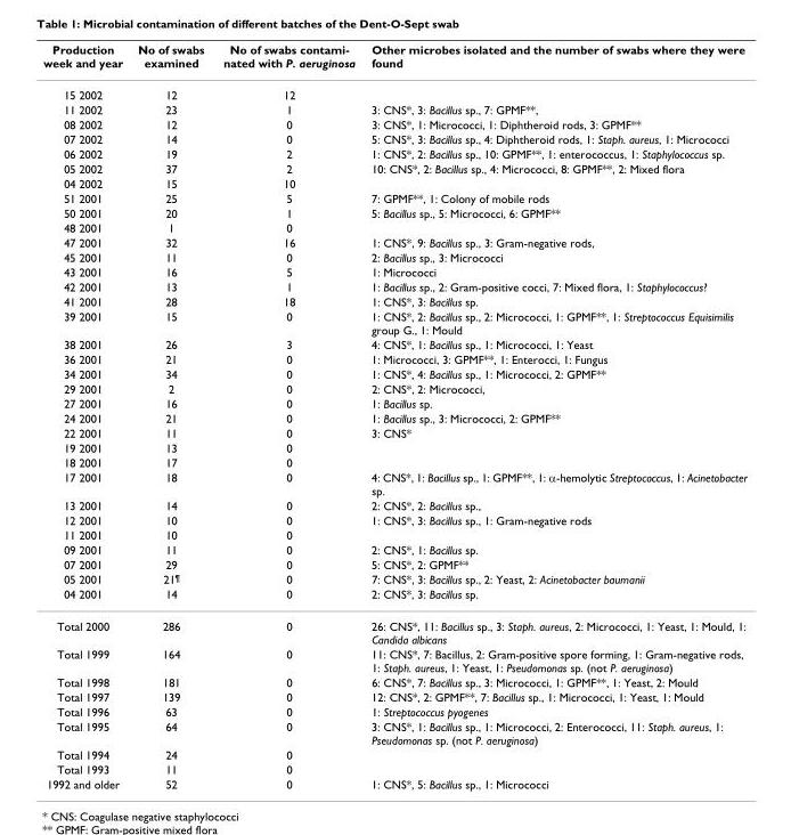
<table><thead><tr><td>Production week and year</td><td>No of swabs examined</td><td>No of swabs contami- nated with P. aeruginosa</td><td>Other microbes isolated and the number of swabs where they were found</td></tr></thead><tbody><tr><td>15 2002</td><td>12</td><td>12</td><td></td></tr><tr><td>11 2002</td><td>23</td><td>1</td><td>3: CNS*, 3: Bacillus sp., 7: GPMF**,</td></tr><tr><td>08 2002</td><td>12</td><td>0</td><td>3: CNS*, 1: Micrococci, 1: Diphtheroid rods, 3: GPMF**</td></tr><tr><td>07 2002</td><td>14</td><td>0</td><td>5: CNS*, 3: Bacillus sp., 4: Diphtheroid rods, 1: Staph. aureus, 1: Micrococci</td></tr><tr><td>06 2002</td><td>19</td><td>2</td><td>1: CNS*, 2: Bacillus sp., 10: GPMF**, 1: enterococcus, 1: Staphylococcus sp.</td></tr><tr><td>05 2002</td><td>37</td><td>2</td><td>10: CNS*, 2: Bacillus sp., 4: Micrococci, 8: GPMF**, 2: Mixed flora</td></tr><tr><td>04 2002</td><td>15</td><td>10</td><td></td></tr><tr><td>51 2001</td><td>25</td><td>5</td><td>7: GPMF**, 1: Colony of mobile rods</td></tr><tr><td>50 2001</td><td>20</td><td>1</td><td>5: Bacillus sp., 5: Micrococci, 6: GPMF**</td></tr><tr><td>48 2001</td><td>1</td><td>0</td><td></td></tr><tr><td>47 2001</td><td>32</td><td>16</td><td>1: CNS*, 9: Bacillus sp., 3: Gram-negative rods,</td></tr><tr><td>45 2001</td><td>11</td><td>0</td><td>2: Bacillus sp., 3: Micrococci</td></tr><tr><td>43 2001</td><td>16</td><td>5</td><td>1: Micrococci</td></tr><tr><td>42 2001</td><td>13</td><td>1</td><td>1: Bacillus sp., 2: Gram-positive cocci, 7: Mixed flora, 1: Staphylococcus?</td></tr><tr><td>41 2001</td><td>28</td><td>18</td><td>1: CNS*, 3: Bacillus sp.</td></tr><tr><td>39 2001</td><td>15</td><td>0</td><td>1: CNS*, 2: Bacillus sp., 2: Micrococci, 1: GPMF**, 1: Streptococcus Equisimilis group G., 1: Mould</td></tr><tr><td>38 2001</td><td>26</td><td>3</td><td>4: CNS*, 1: Bacillus sp., 1: Micrococci, 1: Yeast</td></tr><tr><td>36 2001</td><td>21</td><td>0</td><td>1: Micrococci, 3: GPMF**, 1: Enterocci, 1: Fungus</td></tr><tr><td>34 2001</td><td>34</td><td>0</td><td>1: CNS*, 4: Bacillus sp., 1: Micrococci, 2: GPMF**</td></tr><tr><td>29 2001</td><td>2</td><td>0</td><td>2: CNS*, 2: Micrococci,</td></tr><tr><td>27 2001</td><td>16</td><td>0</td><td>1: Bacillus sp.</td></tr><tr><td>24 2001</td><td>21</td><td>0</td><td>1: Bacillus sp., 3: Micrococci, 2: GPMF**</td></tr><tr><td>22 2001</td><td>11</td><td>0</td><td>3: CNS*</td></tr><tr><td>19 2001</td><td>13</td><td>0</td><td></td></tr><tr><td>18 2001</td><td>17</td><td>0</td><td></td></tr><tr><td>17 2001</td><td>18</td><td>0</td><td>4: CNS*, 1: Bacillus sp., 1: GPMF**, 1: α-hemolytic Streptococcus, 1: Acinetobacter sp.</td></tr><tr><td>13 2001</td><td>14</td><td>0</td><td>2: CNS*, 2: Bacillus sp.,</td></tr><tr><td>12 2001</td><td>10</td><td>0</td><td>1: CNS*, 3: Bacillus sp., 1: Gram-negative rods</td></tr><tr><td>11 2001</td><td>10</td><td>0</td><td></td></tr><tr><td>09 2001</td><td>11</td><td>0</td><td>2: CNS*, 1: Bacillus sp.</td></tr><tr><td>07 2001</td><td>29</td><td>0</td><td>5: CNS*, 2: GPMF**</td></tr><tr><td>05 2001</td><td>21<sup>¶</sup></td><td>0</td><td>7: CNS*, 3: Bacillus sp., 2: Yeast, 2: Acinetobacter baumanii</td></tr><tr><td>04 2001</td><td>14</td><td>0</td><td>2: CNS*, 3: Bacillus sp.</td></tr><tr><td>Total 2000</td><td>286</td><td>0</td><td>26: CNS*, 11: Bacillus sp., 3: Staph. aureus, 2: Micrococci, 1: Yeast, 1: Mould, 1: Candida albicans</td></tr><tr><td>Total 1999</td><td>164</td><td>0</td><td>11: CNS*, 7: Bacillus, 2: Gram-positive spore forming, 1: Gram-negative rods, 1: Staph. aureus, 1: Yeast, 1: Pseudomonas sp. (not P. aeruginosa)</td></tr><tr><td>Total 1998</td><td>181</td><td>0</td><td>6: CNS*, 7: Bacillus sp., 3: Micrococci, 1: GPMF**, 1: Yeast, 2: Mould</td></tr><tr><td>Total 1997</td><td>139</td><td>0</td><td>12: CNS*, 2: GPMF**, 7: Bacillus sp., 1: Micrococci, 1: Yeast, 1: Mould</td></tr><tr><td>Total 1996</td><td>63</td><td>0</td><td>1: Streptococcus pyogenes</td></tr><tr><td>Total 1995</td><td>64</td><td>0</td><td>3: CNS*, 1: Bacillus sp., 1: Micrococci, 2: Enterococci, 11: Staph. aureus, 1: Pseudomonas sp. (not P. aeruginosa)</td></tr><tr><td>Total 1994</td><td>24</td><td>0</td><td></td></tr><tr><td>Total 1993</td><td>11</td><td>0</td><td></td></tr><tr><td>1992 and older</td><td>52</td><td>0</td><td>1: CNS*, 5: Bacillus sp., 1: Micrococci</td></tr></tbody></table>